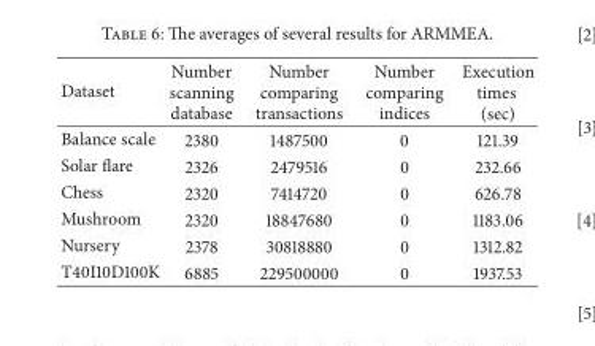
<table><thead><tr><td>Dataset</td><td>Number scanning database</td><td>Number comparing transactions</td><td>Number comparing indices</td><td>Execution times (sec)</td></tr></thead><tbody><tr><td>Balance scale</td><td>2380</td><td>1487500</td><td>0</td><td>121.39</td></tr><tr><td>Solar flare</td><td>2326</td><td>2479516</td><td>0</td><td>232.66</td></tr><tr><td>Chess</td><td>2320</td><td>7414720</td><td>0</td><td>626.78</td></tr><tr><td>Mushroom</td><td>2320</td><td>18847680</td><td>0</td><td>1183.06</td></tr><tr><td>Nursery</td><td>2378</td><td>30818880</td><td>0</td><td>1312.82</td></tr><tr><td>T40I10D100K</td><td>6885</td><td>229500000</td><td>0</td><td>1937.53</td></tr></tbody></table>